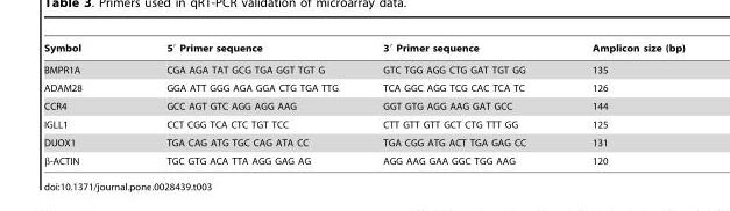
<table><thead><tr><td>Symbol</td><td>5′ Primer sequence</td><td>3′ Primer sequence</td><td>Amplicon size (bp)</td></tr></thead><tbody><tr><td>BMPR1A</td><td>CGA AGA TAT GCG TGA GGT TGT G</td><td>GTC TGG AGG CTG GAT TGT GG</td><td>135</td></tr><tr><td>ADAM28</td><td>GGA ATT GGG AGA GGA CTG TGA TTG</td><td>TCA GGC AGG TCG CAC TCA TC</td><td>126</td></tr><tr><td>CCR4</td><td>GCC AGT GTC AGG AGG AAG</td><td>GGT GTG AGG AAG GAT GCC</td><td>144</td></tr><tr><td>IGLL1</td><td>CCT CGG TCA CTC TGT TCC</td><td>CTT GTT GTT GCT CTG TTT GG</td><td>125</td></tr><tr><td>DUOX1</td><td>TGA CAG ATG TGC CAG ATA CC</td><td>TGA CGG ATG ACT TGA GAG CC</td><td>131</td></tr><tr><td>β-ACTIN</td><td>TGC GTG ACA TTA AGG GAG AG</td><td>AGG AAG GAA GGC TGG AAG</td><td>120</td></tr></tbody></table>